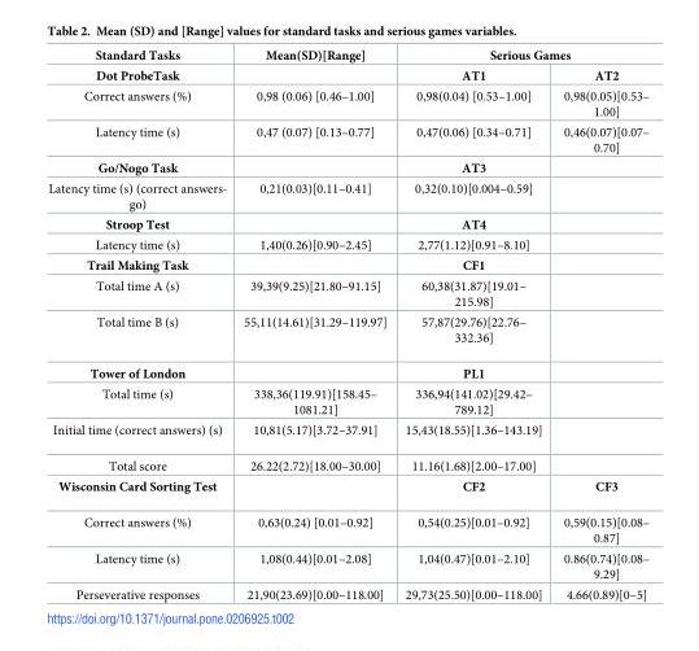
<table><thead><tr><td rowspan="2">Standard Tasks Dot ProbeTask</td><td rowspan="2">Mean(SD)[Range]</td><td colspan="2">Serious Games</td></tr><tr><td>AT1</td><td>AT2</td></tr></thead><tbody><tr><td>Correct answers (%)</td><td>0,98 (0.06) [0.46–1.00]</td><td>0,98(0.04) [0.53–1.00]</td><td>0,98(0.05)[0.53– 1.00]</td></tr><tr><td>Latency time (s)</td><td>0,47 (0.07) [0.13–0.77]</td><td>0,47(0.06) [0.34–0.71]</td><td>0,46(0.07)[0.07– 0.70]</td></tr><tr><td>Go/Nogo Task</td><td></td><td>AT3</td><td></td></tr><tr><td>Latency time (s) (correct answers- go)</td><td>0,21(0.03)[0.11–0.41]</td><td>0,32(0.10)[0.004–0.59]</td><td></td></tr><tr><td>Stroop Test</td><td></td><td>AT4</td><td></td></tr><tr><td>Latency time (s)</td><td>1,40(0.26)[0.90–2.45]</td><td>2,77(1.12)[0.91–8.10]</td><td></td></tr><tr><td>Trail Making Task</td><td></td><td>CF1</td><td></td></tr><tr><td>Total time A (s)</td><td>39,39(9.25)[21.80–91.15]</td><td>60,38(31.87)[19.01– 215.98]</td><td></td></tr><tr><td>Total time B (s)</td><td>55,11(14.61)[31.29–119.97]</td><td>57,87(29.76)[22.76– 332.36]</td><td></td></tr><tr><td>Tower of London</td><td></td><td>PL1</td><td></td></tr><tr><td>Total time (s)</td><td>338,36(119.91)[158.45– 1081.21]</td><td>336,94(141.02)[29.42– 789.12]</td><td></td></tr><tr><td>Initial time (correct answers) (s)</td><td>10,81(5.17)[3.72–37.91]</td><td>15,43(18.55)[1.36–143.19]</td><td></td></tr><tr><td>Total score</td><td>26.22(2.72)[18.00–30.00]</td><td>11.16(1.68)[2.00–17.00]</td><td></td></tr><tr><td>Wisconsin Card Sorting Test</td><td></td><td>CF2</td><td>CF3</td></tr><tr><td>Correct answers (%)</td><td>0,63(0.24) [0.01–0.92]</td><td>0,54(0.25)[0.01–0.92]</td><td>0,59(0.15)[0.08– 0.87]</td></tr><tr><td>Latency time (s)</td><td>1,08(0.44)[0.01–2.08]</td><td>1,04(0.47)[0.01–2.10]</td><td>0.86(0.74)[0.08– 9.29]</td></tr><tr><td>Perseverative responses</td><td>21,90(23.69)[0.00–118.00]</td><td>29,73(25.50)[0.00–118.00]</td><td>4.66(0.89)[0–5]</td></tr></tbody></table>